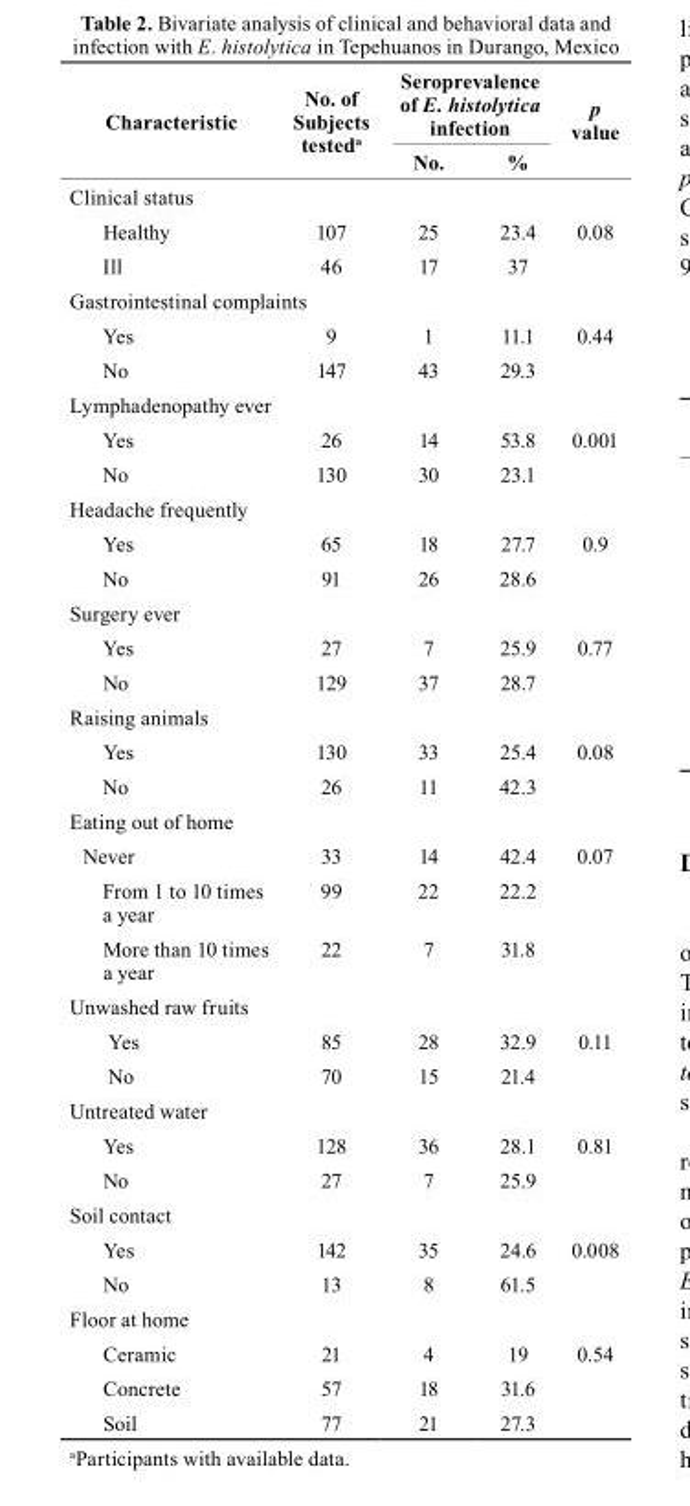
<table><thead><tr><td rowspan="2">characteristic</td><td rowspan="2">No. of subjects tested<sup>a</sup></td><td colspan="2">seroprevalence of E. histolytica infection</td><td rowspan="2">p value</td></tr><tr><td>No.</td><td>%</td></tr></thead><tbody><tr><td colspan="5">Clinical status</td></tr><tr><td>Healthy</td><td>107</td><td>25</td><td>23.4</td><td>0.08</td></tr><tr><td>Ill</td><td>46</td><td>17</td><td>37</td><td></td></tr><tr><td colspan="5">Gastrointestinal complaints</td></tr><tr><td>Yes</td><td>9</td><td>1</td><td>11.1</td><td>0.44</td></tr><tr><td>No</td><td>147</td><td>43</td><td>29.3</td><td></td></tr><tr><td colspan="5">Lymphadenopathy ever</td></tr><tr><td>Yes</td><td>26</td><td>14</td><td>53.8</td><td>0.001</td></tr><tr><td>No</td><td>130</td><td>30</td><td>23.1</td><td></td></tr><tr><td colspan="5">Headache frequently</td></tr><tr><td>Yes</td><td>65</td><td>18</td><td>27.7</td><td>0.9</td></tr><tr><td>No</td><td>91</td><td>26</td><td>28.6</td><td></td></tr><tr><td colspan="5">Surgery ever</td></tr><tr><td>Yes</td><td>27</td><td>7</td><td>25.9</td><td>0.77</td></tr><tr><td>No</td><td>129</td><td>37</td><td>28.7</td><td></td></tr><tr><td colspan="5">Raising animals</td></tr><tr><td>Yes</td><td>130</td><td>33</td><td>25.4</td><td>0.08</td></tr><tr><td>No</td><td>26</td><td>11</td><td>42.3</td><td></td></tr><tr><td colspan="5">Eating out of home</td></tr><tr><td>Never</td><td>33</td><td>14</td><td>42.4</td><td>0.07</td></tr><tr><td>From 1 to 10 times a year</td><td>99</td><td>22</td><td>22.2</td><td></td></tr><tr><td>More than 10 times a year</td><td>22</td><td>7</td><td>31.8</td><td></td></tr><tr><td colspan="5">Unwashed raw fruits</td></tr><tr><td>Yes</td><td>85</td><td>28</td><td>32.9</td><td>0.11</td></tr><tr><td>No</td><td>70</td><td>15</td><td>21.4</td><td></td></tr><tr><td colspan="5">Untreated water</td></tr><tr><td>Yes</td><td>128</td><td>36</td><td>28.1</td><td>0.81</td></tr><tr><td>No</td><td>27</td><td>7</td><td>25.9</td><td></td></tr><tr><td colspan="5">Soil contact</td></tr><tr><td>Yes</td><td>142</td><td>35</td><td>24.6</td><td>0.008</td></tr><tr><td>No</td><td>13</td><td>8</td><td>61.5</td><td></td></tr><tr><td colspan="5">Floor at home</td></tr><tr><td>Ceramic</td><td>21</td><td>4</td><td>19</td><td>0.54</td></tr><tr><td>Concrete</td><td>57</td><td>18</td><td>31.6</td><td></td></tr><tr><td>Soil</td><td>77</td><td>21</td><td>27.3</td><td></td></tr></tbody></table>